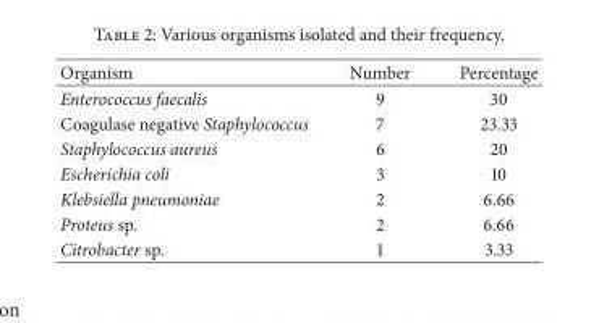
<table><thead><tr><td>Organism</td><td>Number</td><td>Percentage</td></tr></thead><tbody><tr><td>Enterococcus faecalis</td><td>9</td><td>30</td></tr><tr><td>Coagulase negative Staphylococcus</td><td>7</td><td>23.33</td></tr><tr><td>Staphylococcus aureus</td><td>6</td><td>20</td></tr><tr><td>Escherichia coli</td><td>3</td><td>10</td></tr><tr><td>Klebsiella pneumoniae</td><td>2</td><td>6.66</td></tr><tr><td>Proteus sp.</td><td>2</td><td>6.66</td></tr><tr><td>Citrobacter sp.</td><td>1</td><td>3.33</td></tr></tbody></table>